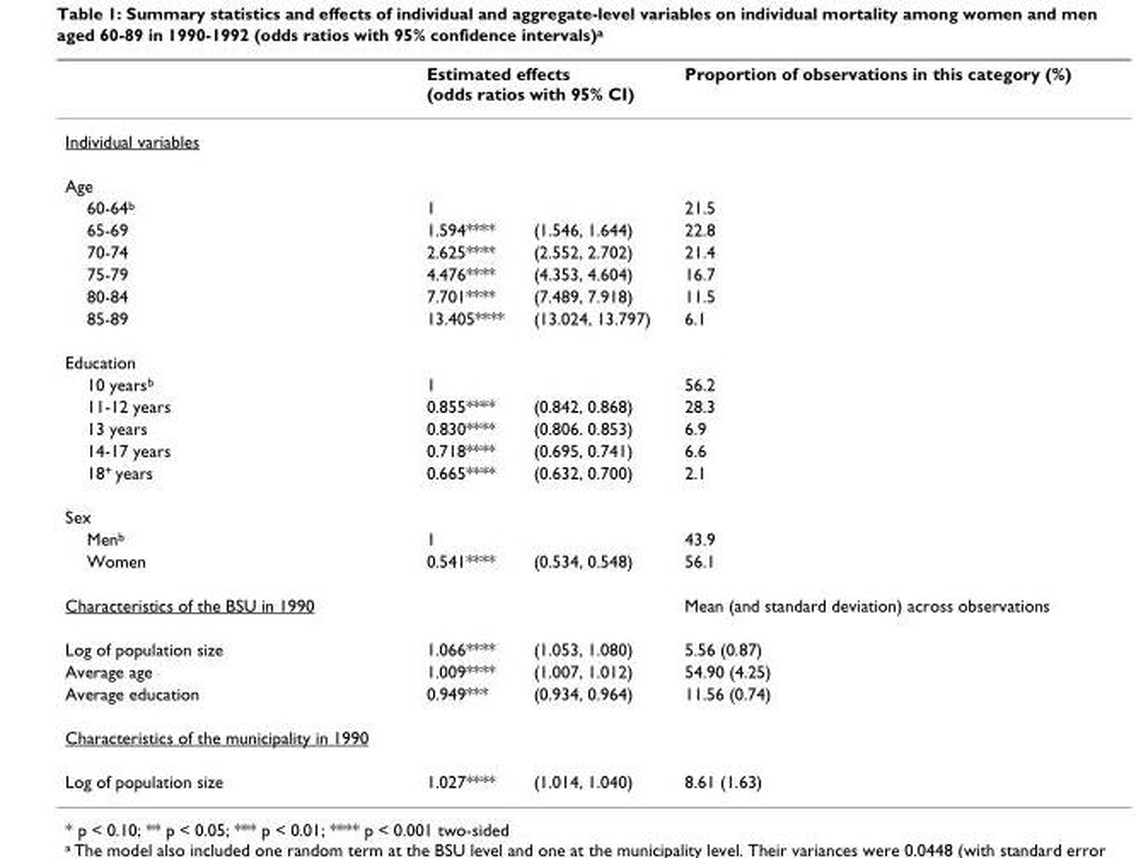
<table><thead><tr><td rowspan="2">Individual variables</td><td colspan="2">Estimated effects (odds ratios with 95% CI)</td><td rowspan="2">Proportion of observations in this category (%)</td></tr><tr><td></td><td></td></tr></thead><tbody><tr><td colspan="4">Age</td></tr><tr><td>60-64<sup>b</sup></td><td>1</td><td></td><td>21.5</td></tr><tr><td>65-69</td><td>1.594****</td><td>(1.546, 1.644)</td><td>22.8</td></tr><tr><td>70-74</td><td>2.625****</td><td>(2.552, 2.702)</td><td>21.4</td></tr><tr><td>75-79</td><td>4.476****</td><td>(4.353, 4.604)</td><td>16.7</td></tr><tr><td>80-84</td><td>7.701****</td><td>(7.489, 7.918)</td><td>11.5</td></tr><tr><td>85-89</td><td>13.405****</td><td>(13.024, 13.797)</td><td>6.1</td></tr><tr><td colspan="4">Education</td></tr><tr><td>10 years<sup>b</sup></td><td>1</td><td></td><td>56.2</td></tr><tr><td>11-12 years</td><td>0.855****</td><td>(0.842, 0.868)</td><td>28.3</td></tr><tr><td>13 years</td><td>0.830****</td><td>(0.806. 0.853)</td><td>6.9</td></tr><tr><td>14-17 years</td><td>0.718****</td><td>(0.695, 0.741)</td><td>6.6</td></tr><tr><td>18<sup>+</sup> years</td><td>0.665****</td><td>(0.632, 0.700)</td><td>2.1</td></tr><tr><td colspan="4">Sex</td></tr><tr><td>Men<sup>b</sup></td><td>1</td><td></td><td>43.9</td></tr><tr><td>Women</td><td>0.541****</td><td>(0.534, 0.548)</td><td>56.1</td></tr><tr><td>Characteristics of the BSU in 1990</td><td></td><td></td><td>Mean (and standard deviation) across observations</td></tr><tr><td>Log of population size</td><td>1.066****</td><td>(1.053, 1.080)</td><td>5.56 (0.87)</td></tr><tr><td>Average age</td><td>1.009****</td><td>(1.007, 1.012)</td><td>54.90 (4.25)</td></tr><tr><td>Average education</td><td>0.949***</td><td>(0.934, 0.964)</td><td>11.56 (0.74)</td></tr><tr><td colspan="4">Characteristics of the municipality in 1990</td></tr><tr><td>Log of population size</td><td>1.027****</td><td>(1.014, 1.040)</td><td>8.61 (1.63)</td></tr></tbody></table>